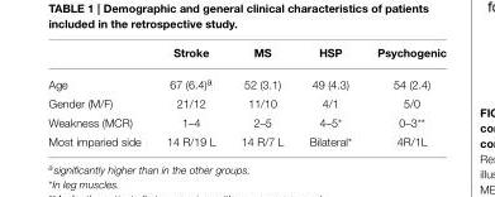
<table><thead><tr><td></td><td>Stroke</td><td>MS</td><td>HSP</td><td>Psychogenic</td></tr></thead><tbody><tr><td>Age</td><td>67 (6.4)<sup>a</sup></td><td>52 (3.1)</td><td>49 (4.3)</td><td>54 (2.4)</td></tr><tr><td>Gender (M/F)</td><td>21/12</td><td>11/10</td><td>4/1</td><td>5/0</td></tr><tr><td>Weakness (MCR)</td><td>1–4</td><td>2–5</td><td>4–5*</td><td>0–3**</td></tr><tr><td>Most imparied side</td><td>14 R/19 L</td><td>14 R/7 L</td><td>Bilateral*</td><td>4R/1L</td></tr></tbody></table>